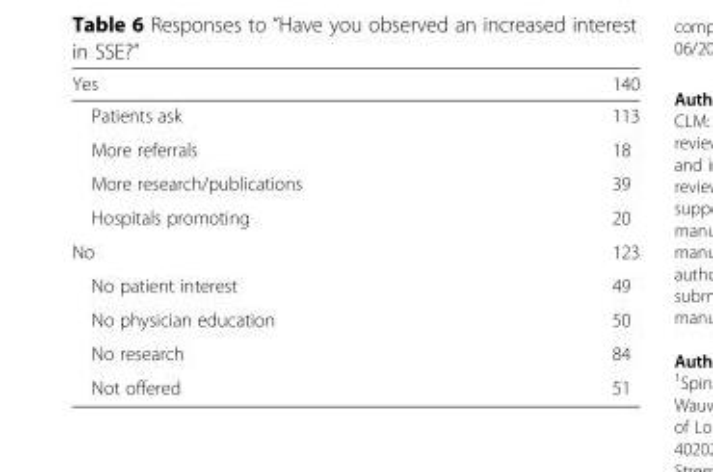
<table><thead><tr><td>Yes</td><td>140</td></tr></thead><tbody><tr><td>Patients ask</td><td>113</td></tr><tr><td>More referrals</td><td>18</td></tr><tr><td>More research/publications</td><td>39</td></tr><tr><td>Hospitals promoting</td><td>20</td></tr><tr><td>No</td><td>123</td></tr><tr><td>No patient interest</td><td>49</td></tr><tr><td>No physician education</td><td>50</td></tr><tr><td>No research</td><td>84</td></tr><tr><td>Not offered</td><td>51</td></tr></tbody></table>